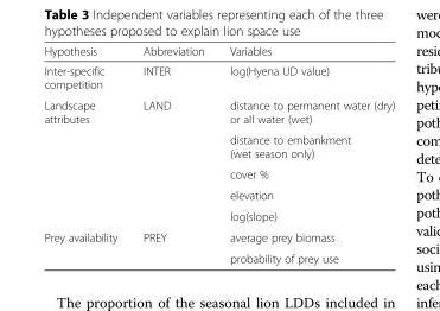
<table><thead><tr><td>Hypothesis</td><td>Abbreviation</td><td>Variables</td></tr></thead><tbody><tr><td>Inter-specific competition</td><td>INTER</td><td>log(Hyena UD value)</td></tr><tr><td rowspan="5">Landscape attributes</td><td>LAND</td><td>distance to permanent water (dry) or all water (wet)</td></tr><tr><td></td><td>distance to embankment (wet season only)</td></tr><tr><td></td><td>cover %</td></tr><tr><td></td><td>elevation</td></tr><tr><td></td><td>log(slope)</td></tr><tr><td rowspan="2">Prey availability</td><td>PREY</td><td>average prey biomass</td></tr><tr><td></td><td>probability of prey use</td></tr></tbody></table>